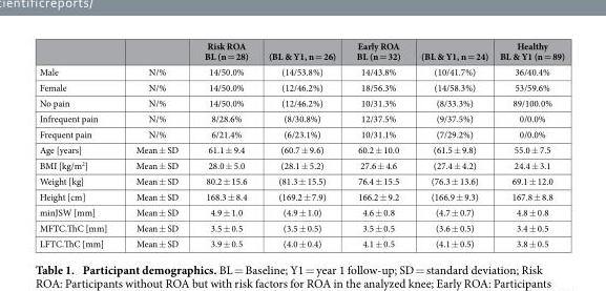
<table><thead><tr><td></td><td></td><td>Risk ROA BL (n = 28)</td><td>(BL &amp; Y1, n = 26)</td><td>Early ROA BL (n = 32)</td><td>(BL &amp; Y1, n = 24)</td><td>Healthy BL &amp; Y1 (n = 89)</td></tr></thead><tbody><tr><td>Male</td><td>N/%</td><td>14/50.0%</td><td>(14/53.8%)</td><td>14/43.8%</td><td>(10/41.7%)</td><td>36/40.4%</td></tr><tr><td>Female</td><td>N/%</td><td>14/50.0%</td><td>(12/46.2%)</td><td>18/56.3%</td><td>(14/58.3%)</td><td>53/59.6%</td></tr><tr><td>No pain</td><td>N/%</td><td>14/50.0%</td><td>(12/46.2%)</td><td>10/31.3%</td><td>(8/33.3%)</td><td>89/100.0%</td></tr><tr><td>Infrequent pain</td><td>N/%</td><td>8/28.6%</td><td>(8/30.8%)</td><td>12/37.5%</td><td>(9/37.5%)</td><td>0/0.0%</td></tr><tr><td>Frequent pain</td><td>N/%</td><td>6/21.4%</td><td>(6/23.1%)</td><td>10/31.1%</td><td>(7/29.2%)</td><td>0/0.0%</td></tr><tr><td>Age [years]</td><td>Mean ± SD</td><td>61.1 ± 9.4</td><td>(60.7 ± 9.6)</td><td>60.2 ± 10.0</td><td>(61.5 ± 9.8)</td><td>55.0 ± 7.5</td></tr><tr><td>BMI [kg/m<sup>2</sup>]</td><td>Mean ± SD</td><td>28.0 ± 5.0</td><td>(28.1 ± 5.2)</td><td>27.6 ± 4.6</td><td>(27.4 ± 4.2)</td><td>24.4 ± 3.1</td></tr><tr><td>Weight [kg]</td><td>Mean ± SD</td><td>80.2 ± 15.6</td><td>(81.3 ± 15.5)</td><td>76.4 ± 15.5</td><td>(76.3 ± 13.6)</td><td>69.1 ± 12.0</td></tr><tr><td>Height [cm]</td><td>Mean ± SD</td><td>168.3 ± 8.4</td><td>(169.2 ± 7.9)</td><td>166.2 ± 9.2</td><td>(166.9 ± 9.3)</td><td>167.8 ± 8.8</td></tr><tr><td>minJSW [mm]</td><td>Mean ± SD</td><td>4.9 ± 1.0</td><td>(4.9 ± 1.0)</td><td>4.6 ± 0.8</td><td>(4.7 ± 0.7)</td><td>4.8 ± 0.8</td></tr><tr><td>MFTC.ThC [mm]</td><td>Mean ± SD</td><td>3.5 ± 0.5</td><td>(3.5 ± 0.5)</td><td>3.5 ± 0.5</td><td>(3.6 ± 0.5)</td><td>3.4 ± 0.5</td></tr><tr><td>LFTC.ThC [mm]</td><td>Mean ± SD</td><td>3.9 ± 0.5</td><td>(4.0 ± 0.4)</td><td>4.1 ± 0.5</td><td>(4.1 ± 0.5)</td><td>3.8 ± 0.5</td></tr></tbody></table>